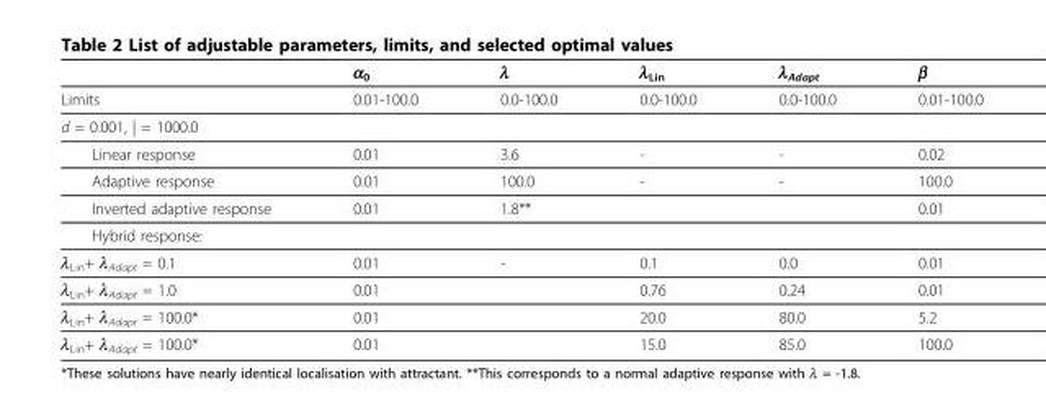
<table><thead><tr><td></td><td>α<sub>0</sub></td><td>λ</td><td>λ<sub>Lin</sub></td><td>λ<sub>Adapt</sub></td><td>β</td></tr></thead><tbody><tr><td>Limits</td><td>0.01-100.0</td><td>0.0-100.0</td><td>0.0-100.0</td><td>0.0-100.0</td><td>0.01-100.0</td></tr><tr><td colspan="6">d = 0.001, | = 1000.0</td></tr><tr><td>Linear response</td><td>0.01</td><td>3.6</td><td>-</td><td>-</td><td>0.02</td></tr><tr><td>Adaptive response</td><td>0.01</td><td>100.0</td><td>-</td><td>-</td><td>100.0</td></tr><tr><td>Inverted adaptive response</td><td>0.01</td><td>1.8**</td><td></td><td></td><td>0.01</td></tr><tr><td colspan="6">Hybrid response:</td></tr><tr><td>λ<sub>Lin</sub>+ λ<sub>Adapt</sub> = 0.1</td><td>0.01</td><td>-</td><td>0.1</td><td>0.0</td><td>0.01</td></tr><tr><td>λ<sub>Lin</sub>+ λ<sub>Adapt</sub> = 1.0</td><td>0.01</td><td></td><td>0.76</td><td>0.24</td><td>0.01</td></tr><tr><td>λ<sub>Lin</sub>+ λ<sub>Adapt</sub> = 100.0*</td><td>0.01</td><td></td><td>20.0</td><td>80.0</td><td>5.2</td></tr><tr><td>λ<sub>Lin</sub>+ λ<sub>Adapt</sub> = 100.0*</td><td>0.01</td><td></td><td>15.0</td><td>85.0</td><td>100.0</td></tr></tbody></table>